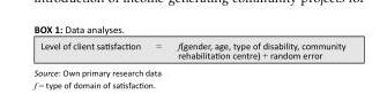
<table><tbody><tr><td>Level of client satisfaction</td><td>=</td><td>f(gender, age, type of disability, community rehabilitation centre) + random error</td></tr></tbody></table>